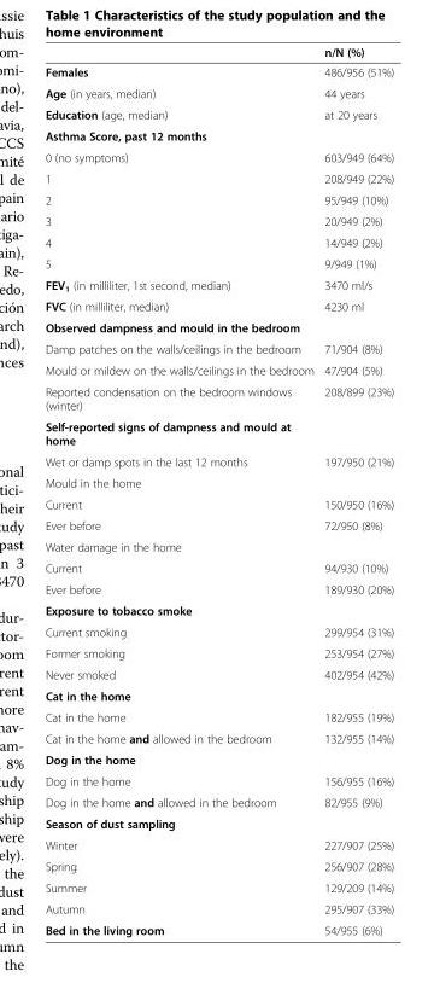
<table><thead><tr><td></td><td>n/N (%)</td></tr></thead><tbody><tr><td>Females</td><td>486/956 (51%)</td></tr><tr><td>Age (in years, median)</td><td>44 years</td></tr><tr><td>Education (age, median)</td><td>at 20 years</td></tr><tr><td colspan="2">Asthma Score, past 12 months</td></tr><tr><td>0 (no symptoms)</td><td>603/949 (64%)</td></tr><tr><td>1</td><td>208/949 (22%)</td></tr><tr><td>2</td><td>95/949 (10%)</td></tr><tr><td>3</td><td>20/949 (2%)</td></tr><tr><td>4</td><td>14/949 (2%)</td></tr><tr><td>5</td><td>9/949 (1%)</td></tr><tr><td>FEV<sub>1</sub> (in milliliter, 1st second, median)</td><td>3470 ml/s</td></tr><tr><td>FVC (in milliliter, median)</td><td>4230 ml</td></tr><tr><td colspan="2">Observed dampness and mould in the bedroom</td></tr><tr><td>Damp patches on the walls/ceilings in the bedroom</td><td>71/904 (8%)</td></tr><tr><td>Mould or mildew on the walls/ceilings in the bedroom</td><td>47/904 (5%)</td></tr><tr><td>Reported condensation on the bedroom windows (winter)</td><td>208/899 (23%)</td></tr><tr><td colspan="2">Self-reported signs of dampness and mould at home</td></tr><tr><td>Wet or damp spots in the last 12 months</td><td>197/950 (21%)</td></tr><tr><td colspan="2">Mould in the home</td></tr><tr><td>Current</td><td>150/950 (16%)</td></tr><tr><td>Ever before</td><td>72/950 (8%)</td></tr><tr><td colspan="2">Water damage in the home</td></tr><tr><td>Current</td><td>94/930 (10%)</td></tr><tr><td>Ever before</td><td>189/930 (20%)</td></tr><tr><td colspan="2">Exposure to tobacco smoke</td></tr><tr><td>Current smoking</td><td>299/954 (31%)</td></tr><tr><td>Former smoking</td><td>253/954 (27%)</td></tr><tr><td>Never smoked</td><td>402/954 (42%)</td></tr><tr><td colspan="2">Cat in the home</td></tr><tr><td>Cat in the home</td><td>182/955 (19%)</td></tr><tr><td>Cat in the home and allowed in the bedroom</td><td>132/955 (14%)</td></tr><tr><td colspan="2">Dog in the home</td></tr><tr><td>Dog in the home</td><td>156/955 (16%)</td></tr><tr><td>Dog in the home and allowed in the bedroom</td><td>82/955 (9%)</td></tr><tr><td colspan="2">Season of dust sampling</td></tr><tr><td>Winter</td><td>227/907 (25%)</td></tr><tr><td>Spring</td><td>256/907 (28%)</td></tr><tr><td>Summer</td><td>129/209 (14%)</td></tr><tr><td>Autumn</td><td>295/907 (33%)</td></tr><tr><td>Bed in the living room</td><td>54/955 (6%)</td></tr></tbody></table>